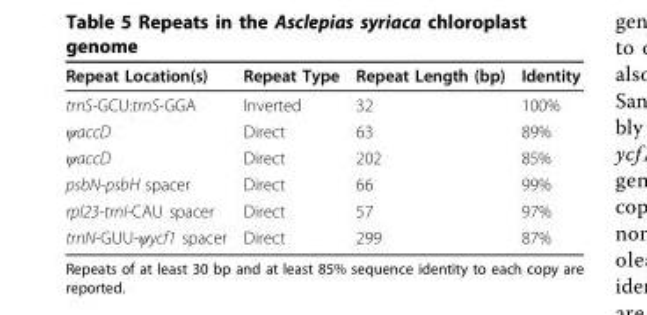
<table><thead><tr><td>Repeat Location(s)</td><td>Repeat Type</td><td>Repeat Length (bp)</td><td>Identity</td></tr></thead><tbody><tr><td>trnS-GCU:trnS-GGA</td><td>Inverted</td><td>32</td><td>100%</td></tr><tr><td>ψaccD</td><td>Direct</td><td>63</td><td>89%</td></tr><tr><td>ψaccD</td><td>Direct</td><td>202</td><td>85%</td></tr><tr><td>psbN-psbH spacer</td><td>Direct</td><td>66</td><td>99%</td></tr><tr><td>rpl23-trnI-CAU spacer</td><td>Direct</td><td>57</td><td>97%</td></tr><tr><td>trnN-GUU-ψycf1 spacer</td><td>Direct</td><td>299</td><td>87%</td></tr></tbody></table>